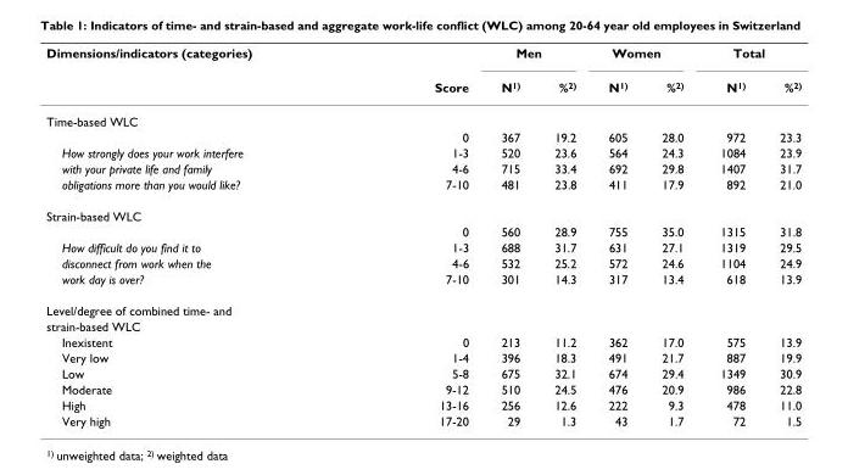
<table><thead><tr><td rowspan="2">Dimensions/indicators (categories)</td><td rowspan="2">Score</td><td colspan="2">Men</td><td colspan="2">Women</td><td colspan="2">Total</td></tr><tr><td>N<sup>1)</sup></td><td>%<sup>2)</sup></td><td>N<sup>1)</sup></td><td>%<sup>2)</sup></td><td>N<sup>1)</sup></td><td>%<sup>2)</sup></td></tr></thead><tbody><tr><td colspan="8">Time-based WLC</td></tr><tr><td></td><td>0</td><td>367</td><td>19.2</td><td>605</td><td>28.0</td><td>972</td><td>23.3</td></tr><tr><td>How strongly does your work interfere</td><td>1-3</td><td>520</td><td>23.6</td><td>564</td><td>24.3</td><td>1084</td><td>23.9</td></tr><tr><td>with your private life and family</td><td>4-6</td><td>715</td><td>33.4</td><td>692</td><td>29.8</td><td>1407</td><td>31.7</td></tr><tr><td>obligations more than you would like?</td><td>7-10</td><td>481</td><td>23.8</td><td>411</td><td>17.9</td><td>892</td><td>21.0</td></tr><tr><td colspan="8">Strain-based WLC</td></tr><tr><td></td><td>0</td><td>560</td><td>28.9</td><td>755</td><td>35.0</td><td>1315</td><td>31.8</td></tr><tr><td>How difficult do you find it to</td><td>1-3</td><td>688</td><td>31.7</td><td>631</td><td>27.1</td><td>1319</td><td>29.5</td></tr><tr><td>disconnect from work when the</td><td>4-6</td><td>532</td><td>25.2</td><td>572</td><td>24.6</td><td>1104</td><td>24.9</td></tr><tr><td>work day is over?</td><td>7-10</td><td>301</td><td>14.3</td><td>317</td><td>13.4</td><td>618</td><td>13.9</td></tr><tr><td colspan="8">Level/degree of combined time- and</td></tr><tr><td colspan="8">strain-based WLC</td></tr><tr><td>Inexistent</td><td>0</td><td>213</td><td>11.2</td><td>362</td><td>17.0</td><td>575</td><td>13.9</td></tr><tr><td>Very low</td><td>1-4</td><td>396</td><td>18.3</td><td>491</td><td>21.7</td><td>887</td><td>19.9</td></tr><tr><td>Low</td><td>5-8</td><td>675</td><td>32.1</td><td>674</td><td>29.4</td><td>1349</td><td>30.9</td></tr><tr><td>Moderate</td><td>9-12</td><td>510</td><td>24.5</td><td>476</td><td>20.9</td><td>986</td><td>22.8</td></tr><tr><td>High</td><td>13-16</td><td>256</td><td>12.6</td><td>222</td><td>9.3</td><td>478</td><td>11.0</td></tr><tr><td>Very high</td><td>17-20</td><td>29</td><td>1.3</td><td>43</td><td>1.7</td><td>72</td><td>1.5</td></tr></tbody></table>